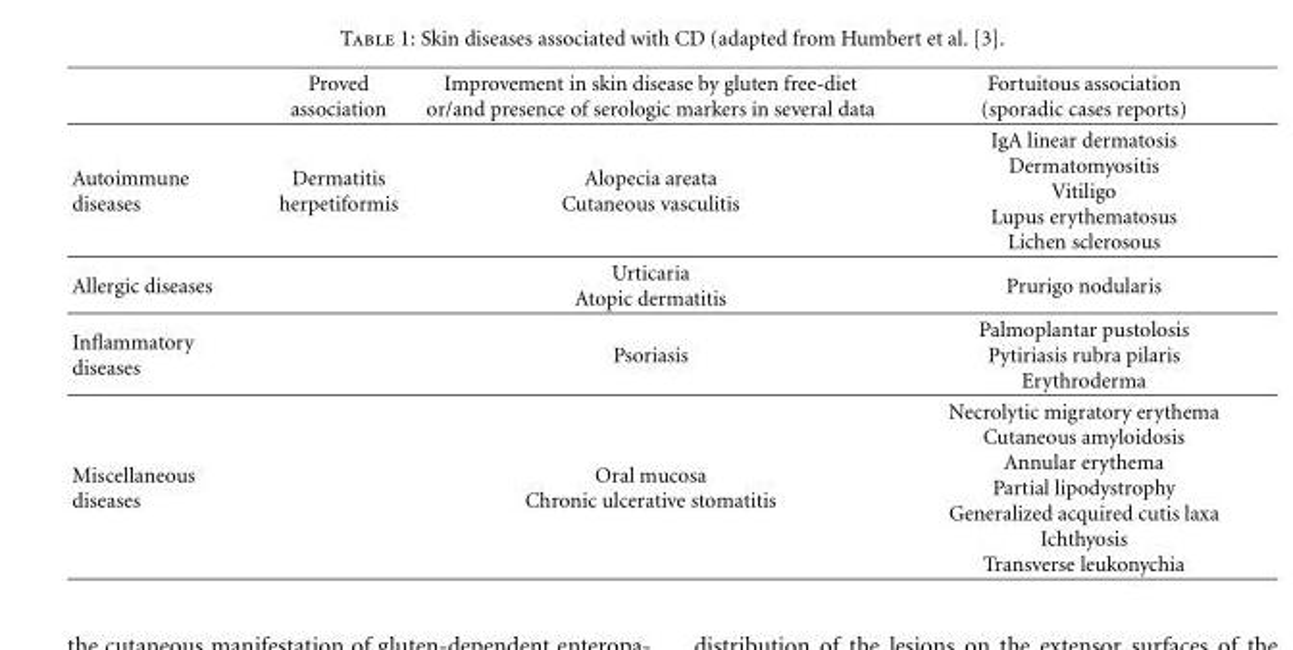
<table><thead><tr><td></td><td>Proved association</td><td>Improvement in skin disease by gluten free-diet or/and presence of serologic markers in several data</td><td>Fortuitous association (sporadic cases reports)</td></tr></thead><tbody><tr><td>Autoimmune diseases</td><td>Dermatitis herpetiformis</td><td>Alopecia areata Cutaneous vasculitis</td><td>IgA linear dermatosis Dermatomyositis Vitiligo Lupus erythematosus Lichen sclerosous</td></tr><tr><td>Allergic diseases</td><td></td><td>Urticaria Atopic dermatitis</td><td>Prurigo nodularis</td></tr><tr><td>Inflammatory diseases</td><td></td><td>Psoriasis</td><td>Palmoplantar pustolosis Pytiriasis rubra pilaris Erythroderma</td></tr><tr><td>Miscellaneous diseases</td><td></td><td>Oral mucosa Chronic ulcerative stomatitis</td><td>Necrolytic migratory erythema Cutaneous amyloidosis Annular erythema Partial lipodystrophy Generalized acquired cutis laxa Ichthyosis Transverse leukonychia</td></tr></tbody></table>